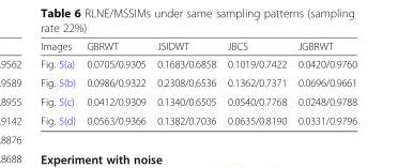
<table><thead><tr><td>Images</td><td>GBRWT</td><td>JSIDWT</td><td>JBCS</td><td>JGBRWT</td></tr></thead><tbody><tr><td>Fig. 5(a)</td><td>0.0705/0.9305</td><td>0.1683/0.6858</td><td>0.1019/0.7422</td><td>0.0420/0.9760</td></tr><tr><td>Fig. 5(b)</td><td>0.0986/0.9322</td><td>0.2308/0.6536</td><td>0.1362/0.7371</td><td>0.0696/0.9661</td></tr><tr><td>Fig. 5(c)</td><td>0.0412/0.9309</td><td>0.1340/0.6505</td><td>0.0540/0.7768</td><td>0.0248/0.9788</td></tr><tr><td>Fig. 5(d)</td><td>0.0563/0.9366</td><td>0.1382/0.7036</td><td>0.0635/0.8190</td><td>0.0331/0.9796</td></tr></tbody></table>